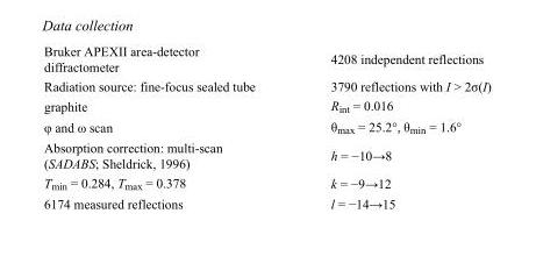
<table><tbody><tr><td>Bruker APEXII area-detector diffractometer</td><td>4208 independent reflections</td></tr><tr><td>Radiation source: fine-focus sealed tube</td><td>3790 reflections with I &gt; 2σ(I)</td></tr><tr><td>graphite</td><td>R<sub>int</sub> = 0.016</td></tr><tr><td>φ and ω scan</td><td>θ<sub>max</sub> = 25.2°, θ<sub>min</sub> = 1.6°</td></tr><tr><td>Absorption correction: multi-scan (SADABS; Sheldrick, 1996)</td><td>h = −10→8</td></tr><tr><td>T<sub>min</sub> = 0.284, T<sub>max</sub> = 0.378</td><td>k = −9→12</td></tr><tr><td>6174 measured reflections</td><td>l = −14→15</td></tr></tbody></table>